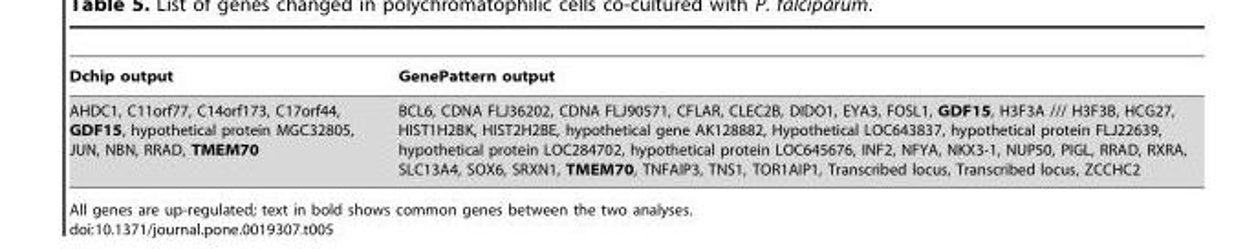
<table><thead><tr><td>Dchip output</td><td>GenePattern output</td></tr></thead><tbody><tr><td>AHDC1, C11orf77, C14orf173, C17orf44, GDF15, hypothetical protein MGC32805, JUN, NBN, RRAD, TMEM70</td><td>BCL6, CDNA FLJ36202, CDNA FLJ90571, CFLAR, CLEC2B, DIDO1, EYA3, FOSL1, GDF15, H3F3A /// H3F3B, HCG27, HIST1H2BK, HIST2H2BE, hypothetical gene AK128882, Hypothetical LOC643837, hypothetical protein FLJ22639, hypothetical protein LOC284702, hypothetical protein LOC645676, INF2, NFYA, NKX3-1, NUP50, PIGL, RRAD, RXRA, SLC13A4, SOX6, SRXN1, TMEM70, TNFAIP3, TNS1, TOR1AIP1, Transcribed locus, Transcribed locus, ZCCHC2</td></tr></tbody></table>